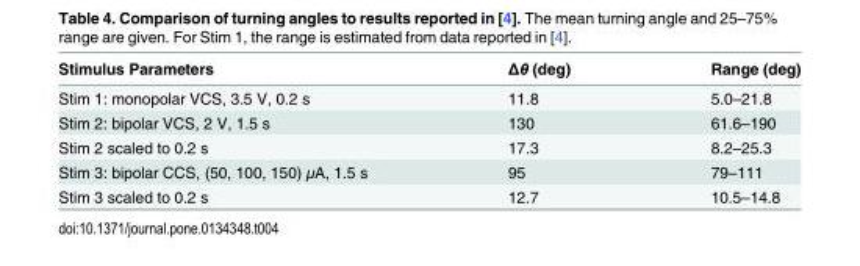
<table><thead><tr><td>Stimulus Parameters</td><td>Δθ (deg)</td><td>Range (deg)</td></tr></thead><tbody><tr><td>Stim 1: monopolar VCS, 3.5 V, 0.2 s</td><td>11.8</td><td>5.0–21.8</td></tr><tr><td>Stim 2: bipolar VCS, 2 V, 1.5 s</td><td>130</td><td>61.6–190</td></tr><tr><td>Stim 2 scaled to 0.2 s</td><td>17.3</td><td>8.2–25.3</td></tr><tr><td>Stim 3: bipolar CCS, (50, 100, 150) μA, 1.5 s</td><td>95</td><td>79–111</td></tr><tr><td>Stim 3 scaled to 0.2 s</td><td>12.7</td><td>10.5–14.8</td></tr></tbody></table>